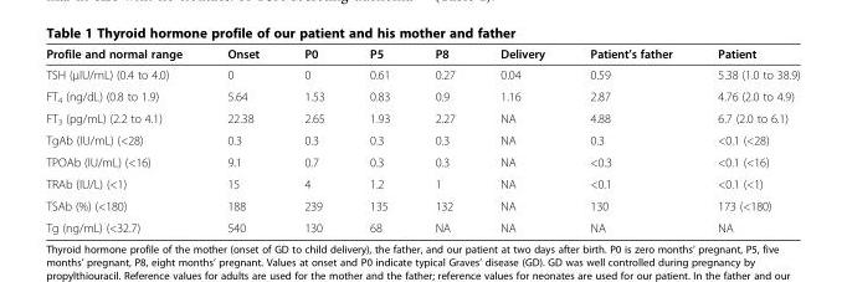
<table><thead><tr><td>Profile and normal range</td><td>Onset</td><td>P0</td><td>P5</td><td>P8</td><td>Delivery</td><td>Patient’s father</td><td>Patient</td></tr></thead><tbody><tr><td>TSH (μIU/mL) (0.4 to 4.0)</td><td>0</td><td>0</td><td>0.61</td><td>0.27</td><td>0.04</td><td>0.59</td><td>5.38 (1.0 to 38.9)</td></tr><tr><td>FT<sub>4</sub> (ng/dL) (0.8 to 1.9)</td><td>5.64</td><td>1.53</td><td>0.83</td><td>0.9</td><td>1.16</td><td>2.87</td><td>4.76 (2.0 to 4.9)</td></tr><tr><td>FT<sub>3</sub> (pg/mL) (2.2 to 4.1)</td><td>22.38</td><td>2.65</td><td>1.93</td><td>2.27</td><td>NA</td><td>4.88</td><td>6.7 (2.0 to 6.1)</td></tr><tr><td>TgAb (IU/mL) (&lt;28)</td><td>0.3</td><td>0.3</td><td>0.3</td><td>0.3</td><td>NA</td><td>0.3</td><td>&lt;0.1 (&lt;28)</td></tr><tr><td>TPOAb (IU/mL) (&lt;16)</td><td>9.1</td><td>0.7</td><td>0.3</td><td>0.3</td><td>NA</td><td>&lt;0.3</td><td>&lt;0.1 (&lt;16)</td></tr><tr><td>TRAb (IU/L) (&lt;1)</td><td>15</td><td>4</td><td>1.2</td><td>1</td><td>NA</td><td>&lt;0.1</td><td>&lt;0.1 (&lt;1)</td></tr><tr><td>TSAb (%) (&lt;180)</td><td>188</td><td>239</td><td>135</td><td>132</td><td>NA</td><td>130</td><td>173 (&lt;180)</td></tr><tr><td>Tg (ng/mL) (&lt;32.7)</td><td>540</td><td>130</td><td>68</td><td>NA</td><td>NA</td><td>NA</td><td>NA</td></tr></tbody></table>